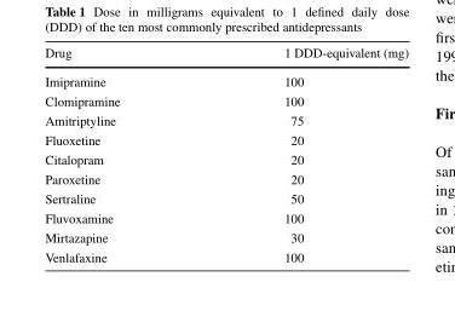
<table><thead><tr><td>Drug</td><td>1 DDD-equivalent (mg)</td></tr></thead><tbody><tr><td>Imipramine</td><td>100</td></tr><tr><td>Clomipramine</td><td>100</td></tr><tr><td>Amitriptyline</td><td>75</td></tr><tr><td>Fluoxetine</td><td>20</td></tr><tr><td>Citalopram</td><td>20</td></tr><tr><td>Paroxetine</td><td>20</td></tr><tr><td>Sertraline</td><td>50</td></tr><tr><td>Fluvoxamine</td><td>100</td></tr><tr><td>Mirtazapine</td><td>30</td></tr><tr><td>Venlafaxine</td><td>100</td></tr></tbody></table>